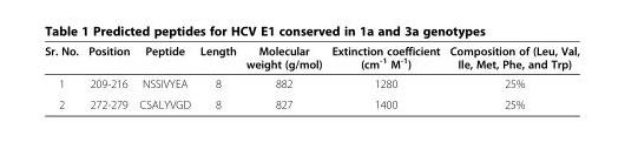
<table><thead><tr><td>Sr. No.</td><td>Position</td><td>Peptide</td><td>Length</td><td>Molecular weight (g/mol)</td><td>Extinction coefficient (cm<sup>-1</sup> M<sup>-1</sup>)</td><td>Composition of (Leu, Val, Ile, Met, Phe, and Trp)</td></tr></thead><tbody><tr><td>1</td><td>209-216</td><td>NSSIVYEA</td><td>8</td><td>882</td><td>1280</td><td>25%</td></tr><tr><td>2</td><td>272-279</td><td>CSALYVGD</td><td>8</td><td>827</td><td>1400</td><td>25%</td></tr></tbody></table>